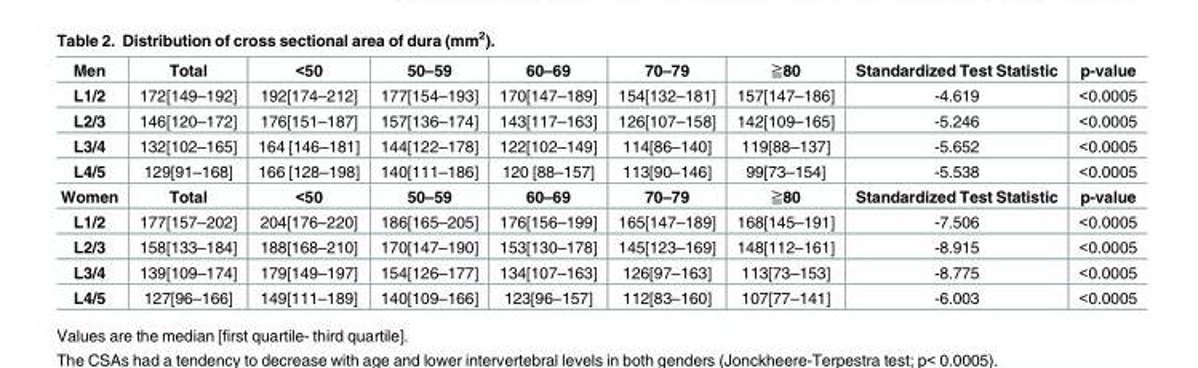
<table><tbody><tr><td>Men</td><td>Total</td><td>&lt;50</td><td>50–59</td><td>60–69</td><td>70–79</td><td>≧80</td><td>Standardized Test Statistic</td><td>p-value</td></tr><tr><td>L1/2</td><td>172[149–192]</td><td>192[174–212]</td><td>177[154–193]</td><td>170[147–189]</td><td>154[132–181]</td><td>157[147–186]</td><td>-4.619</td><td>&lt;0.0005</td></tr><tr><td>L2/3</td><td>146[120–172]</td><td>176[151–187]</td><td>157[136–174]</td><td>143[117–163]</td><td>126[107–158]</td><td>142[109–165]</td><td>-5.246</td><td>&lt;0.0005</td></tr><tr><td>L3/4</td><td>132[102–165]</td><td>164 [146–181]</td><td>144[122–178]</td><td>122[102–149]</td><td>114[86–140]</td><td>119[88–137]</td><td>-5.652</td><td>&lt;0.0005</td></tr><tr><td>L4/5</td><td>129[91–168]</td><td>166 [128–198]</td><td>140[111–186]</td><td>120 [88–157]</td><td>113[90–146]</td><td>99[73–154]</td><td>-5.538</td><td>&lt;0.0005</td></tr><tr><td>Women</td><td>Total</td><td>&lt;50</td><td>50–59</td><td>60–69</td><td>70–79</td><td>≧80</td><td>Standardized Test Statistic</td><td>p-value</td></tr><tr><td>L1/2</td><td>177[157–202]</td><td>204[176–220]</td><td>186[165–205]</td><td>176[156–199]</td><td>165[147–189]</td><td>168[145–191]</td><td>-7.506</td><td>&lt;0.0005</td></tr><tr><td>L2/3</td><td>158[133–184]</td><td>188[168–210]</td><td>170[147–190]</td><td>153[130–178]</td><td>145[123–169]</td><td>148[112–161]</td><td>-8.915</td><td>&lt;0.0005</td></tr><tr><td>L3/4</td><td>139[109–174]</td><td>179[149–197]</td><td>154[126–177]</td><td>134[107–163]</td><td>126[97–163]</td><td>113[73–153]</td><td>-8.775</td><td>&lt;0.0005</td></tr><tr><td>L4/5</td><td>127[96–166]</td><td>149[111–189]</td><td>140[109–166]</td><td>123[96–157]</td><td>112[83–160]</td><td>107[77–141]</td><td>-6.003</td><td>&lt;0.0005</td></tr></tbody></table>